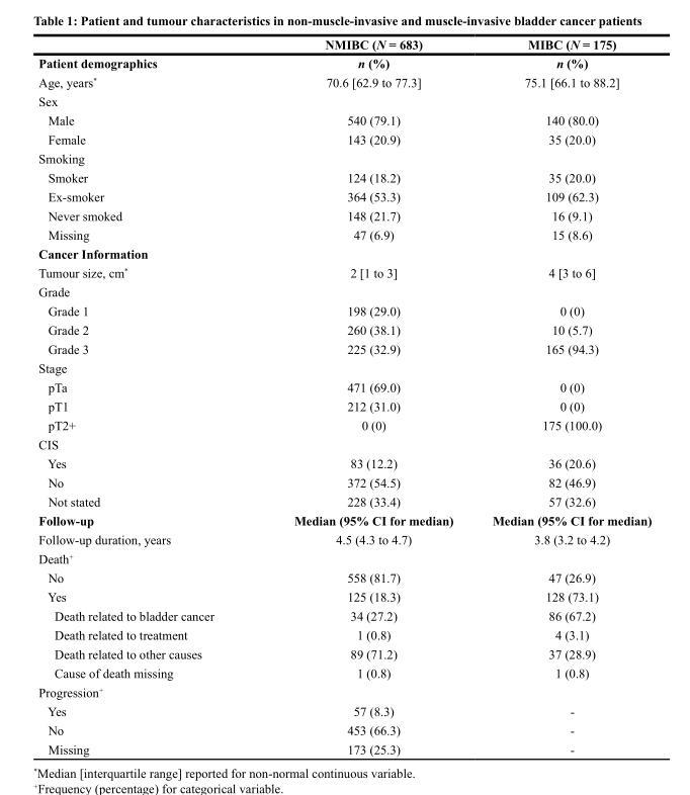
<table><thead><tr><td></td><td>NMIBC (N = 683)</td><td>MIBC (N = 175)</td></tr></thead><tbody><tr><td>Patient demographics</td><td>n (%)</td><td>n (%)</td></tr><tr><td>Age, years*</td><td>70.6 [62.9 to 77.3]</td><td>75.1 [66.1 to 88.2]</td></tr><tr><td colspan="3">Sex</td></tr><tr><td>Male</td><td>540 (79.1)</td><td>140 (80.0)</td></tr><tr><td>Female</td><td>143 (20.9)</td><td>35 (20.0)</td></tr><tr><td colspan="3">Smoking</td></tr><tr><td>Smoker</td><td>124 (18.2)</td><td>35 (20.0)</td></tr><tr><td>Ex-smoker</td><td>364 (53.3)</td><td>109 (62.3)</td></tr><tr><td>Never smoked</td><td>148 (21.7)</td><td>16 (9.1)</td></tr><tr><td>Missing</td><td>47 (6.9)</td><td>15 (8.6)</td></tr><tr><td colspan="3">Cancer Information</td></tr><tr><td>Tumour size, cm*</td><td>2 [1 to 3]</td><td>4 [3 to 6]</td></tr><tr><td colspan="3">Grade</td></tr><tr><td>Grade 1</td><td>198 (29.0)</td><td>0 (0)</td></tr><tr><td>Grade 2</td><td>260 (38.1)</td><td>10 (5.7)</td></tr><tr><td>Grade 3</td><td>225 (32.9)</td><td>165 (94.3)</td></tr><tr><td colspan="3">Stage</td></tr><tr><td>pTa</td><td>471 (69.0)</td><td>0 (0)</td></tr><tr><td>pT1</td><td>212 (31.0)</td><td>0 (0)</td></tr><tr><td>pT2+</td><td>0 (0)</td><td>175 (100.0)</td></tr><tr><td colspan="3">CIS</td></tr><tr><td>Yes</td><td>83 (12.2)</td><td>36 (20.6)</td></tr><tr><td>No</td><td>372 (54.5)</td><td>82 (46.9)</td></tr><tr><td>Not stated</td><td>228 (33.4)</td><td>57 (32.6)</td></tr><tr><td>Follow-up</td><td>Median (95% CI for median)</td><td>Median (95% CI for median)</td></tr><tr><td>Follow-up duration, years</td><td>4.5 (4.3 to 4.7)</td><td>3.8 (3.2 to 4.2)</td></tr><tr><td colspan="3">Death<sup>+</sup></td></tr><tr><td>No</td><td>558 (81.7)</td><td>47 (26.9)</td></tr><tr><td>Yes</td><td>125 (18.3)</td><td>128 (73.1)</td></tr><tr><td>Death related to bladder cancer</td><td>34 (27.2)</td><td>86 (67.2)</td></tr><tr><td>Death related to treatment</td><td>1 (0.8)</td><td>4 (3.1)</td></tr><tr><td>Death related to other causes</td><td>89 (71.2)</td><td>37 (28.9)</td></tr><tr><td>Cause of death missing</td><td>1 (0.8)</td><td>1 (0.8)</td></tr><tr><td colspan="3">Progression<sup>+</sup></td></tr><tr><td>Yes</td><td>57 (8.3)</td><td>-</td></tr><tr><td>No</td><td>453 (66.3)</td><td>-</td></tr><tr><td>Missing</td><td>173 (25.3)</td><td>-</td></tr></tbody></table>